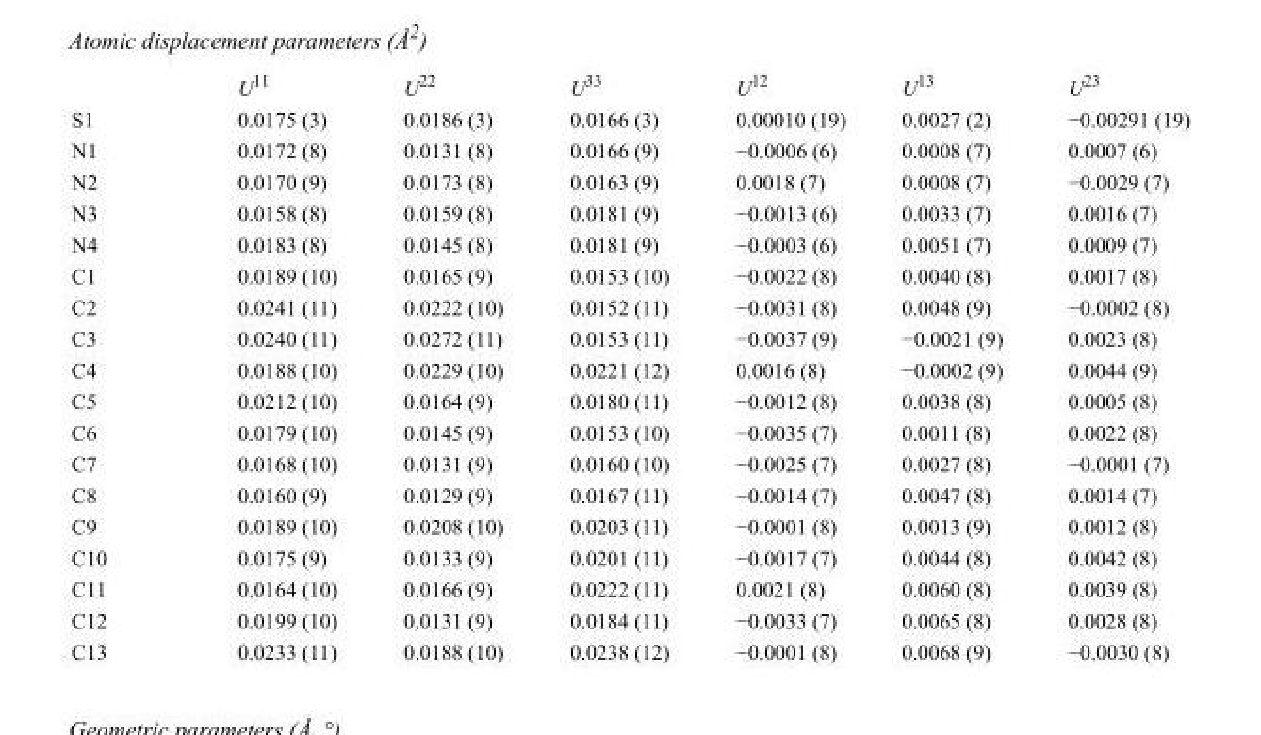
<table><thead><tr><td></td><td>U<sup>11</sup></td><td>U<sup>22</sup></td><td>U<sup>33</sup></td><td>U<sup>12</sup></td><td>U<sup>13</sup></td><td>U<sup>23</sup></td></tr></thead><tbody><tr><td>S1</td><td>0.0175 (3)</td><td>0.0186 (3)</td><td>0.0166 (3)</td><td>0.00010 (19)</td><td>0.0027 (2)</td><td>−0.00291 (19)</td></tr><tr><td>N1</td><td>0.0172 (8)</td><td>0.0131 (8)</td><td>0.0166 (9)</td><td>−0.0006 (6)</td><td>0.0008 (7)</td><td>0.0007 (6)</td></tr><tr><td>N2</td><td>0.0170 (9)</td><td>0.0173 (8)</td><td>0.0163 (9)</td><td>0.0018 (7)</td><td>0.0008 (7)</td><td>−0.0029 (7)</td></tr><tr><td>N3</td><td>0.0158 (8)</td><td>0.0159 (8)</td><td>0.0181 (9)</td><td>−0.0013 (6)</td><td>0.0033 (7)</td><td>0.0016 (7)</td></tr><tr><td>N4</td><td>0.0183 (8)</td><td>0.0145 (8)</td><td>0.0181 (9)</td><td>−0.0003 (6)</td><td>0.0051 (7)</td><td>0.0009 (7)</td></tr><tr><td>C1</td><td>0.0189 (10)</td><td>0.0165 (9)</td><td>0.0153 (10)</td><td>−0.0022 (8)</td><td>0.0040 (8)</td><td>0.0017 (8)</td></tr><tr><td>C2</td><td>0.0241 (11)</td><td>0.0222 (10)</td><td>0.0152 (11)</td><td>−0.0031 (8)</td><td>0.0048 (9)</td><td>−0.0002 (8)</td></tr><tr><td>C3</td><td>0.0240 (11)</td><td>0.0272 (11)</td><td>0.0153 (11)</td><td>−0.0037 (9)</td><td>−0.0021 (9)</td><td>0.0023 (8)</td></tr><tr><td>C4</td><td>0.0188 (10)</td><td>0.0229 (10)</td><td>0.0221 (12)</td><td>0.0016 (8)</td><td>−0.0002 (9)</td><td>0.0044 (9)</td></tr><tr><td>C5</td><td>0.0212 (10)</td><td>0.0164 (9)</td><td>0.0180 (11)</td><td>−0.0012 (8)</td><td>0.0038 (8)</td><td>0.0005 (8)</td></tr><tr><td>C6</td><td>0.0179 (10)</td><td>0.0145 (9)</td><td>0.0153 (10)</td><td>−0.0035 (7)</td><td>0.0011 (8)</td><td>0.0022 (8)</td></tr><tr><td>C7</td><td>0.0168 (10)</td><td>0.0131 (9)</td><td>0.0160 (10)</td><td>−0.0025 (7)</td><td>0.0027 (8)</td><td>−0.0001 (7)</td></tr><tr><td>C8</td><td>0.0160 (9)</td><td>0.0129 (9)</td><td>0.0167 (11)</td><td>−0.0014 (7)</td><td>0.0047 (8)</td><td>0.0014 (7)</td></tr><tr><td>C9</td><td>0.0189 (10)</td><td>0.0208 (10)</td><td>0.0203 (11)</td><td>−0.0001 (8)</td><td>0.0013 (9)</td><td>0.0012 (8)</td></tr><tr><td>C10</td><td>0.0175 (9)</td><td>0.0133 (9)</td><td>0.0201 (11)</td><td>−0.0017 (7)</td><td>0.0044 (8)</td><td>0.0042 (8)</td></tr><tr><td>C11</td><td>0.0164 (10)</td><td>0.0166 (9)</td><td>0.0222 (11)</td><td>0.0021 (8)</td><td>0.0060 (8)</td><td>0.0039 (8)</td></tr><tr><td>C12</td><td>0.0199 (10)</td><td>0.0131 (9)</td><td>0.0184 (11)</td><td>−0.0033 (7)</td><td>0.0065 (8)</td><td>0.0028 (8)</td></tr><tr><td>C13</td><td>0.0233 (11)</td><td>0.0188 (10)</td><td>0.0238 (12)</td><td>−0.0001 (8)</td><td>0.0068 (9)</td><td>−0.0030 (8)</td></tr></tbody></table>